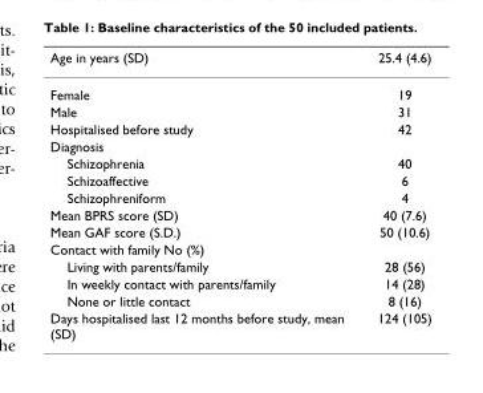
<table><thead><tr><td>Age in years (SD)</td><td>25.4 (4.6)</td></tr></thead><tbody><tr><td>Female</td><td>19</td></tr><tr><td>Male</td><td>31</td></tr><tr><td>Hospitalised before study</td><td>42</td></tr><tr><td colspan="2">Diagnosis</td></tr><tr><td>Schizophrenia</td><td>40</td></tr><tr><td>Schizoaffective</td><td>6</td></tr><tr><td>Schizophreniform</td><td>4</td></tr><tr><td>Mean BPRS score (SD)</td><td>40 (7.6)</td></tr><tr><td>Mean GAF score (S.D.)</td><td>50 (10.6)</td></tr><tr><td colspan="2">Contact with family No (%)</td></tr><tr><td>Living with parents/family</td><td>28 (56)</td></tr><tr><td>In weekly contact with parents/family</td><td>14 (28)</td></tr><tr><td>None or little contact</td><td>8 (16)</td></tr><tr><td>Days hospitalised last 12 months before study, mean (SD)</td><td>124 (105)</td></tr></tbody></table>